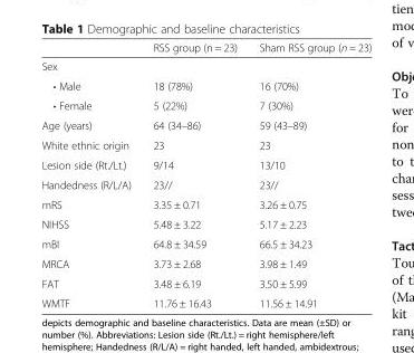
<table><thead><tr><td></td><td>RSS group (n = 23)</td><td>Sham RSS group (n = 23)</td></tr></thead><tbody><tr><td colspan="3">Sex</td></tr><tr><td>• Male</td><td>18 (78%)</td><td>16 (70%)</td></tr><tr><td>• Female</td><td>5 (22%)</td><td>7 (30%)</td></tr><tr><td>Age (years)</td><td>64 (34–86)</td><td>59 (43–89)</td></tr><tr><td>White ethnic origin</td><td>23</td><td>23</td></tr><tr><td>Lesion side (Rt./Lt.)</td><td>9/14</td><td>13/10</td></tr><tr><td>Handedness (R/L/A)</td><td>23//</td><td>23//</td></tr><tr><td>mRS</td><td>3.35 ± 0.71</td><td>3.26 ± 0.75</td></tr><tr><td>NIHSS</td><td>5.48 ± 3.22</td><td>5.17 ± 2.23</td></tr><tr><td>mBI</td><td>64.8 ± 34.59</td><td>66.5 ± 34.23</td></tr><tr><td>MRCA</td><td>3.73 ± 2.68</td><td>3.98 ± 1.49</td></tr><tr><td>FAT</td><td>3.48 ± 6.19</td><td>3.50 ± 5.99</td></tr><tr><td>WMTF</td><td>11.76 ± 16.43</td><td>11.56 ± 14.91</td></tr></tbody></table>